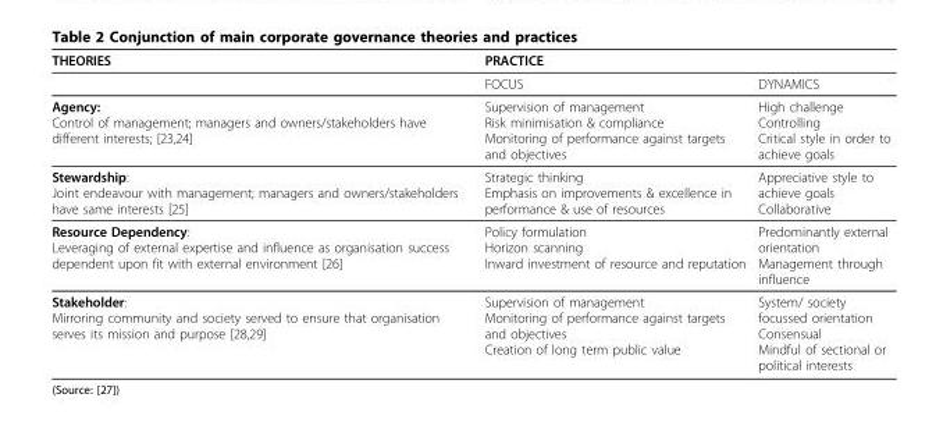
<table><thead><tr><td rowspan="2">THEORIES</td><td colspan="2">PRACTICE</td></tr><tr><td>FOCUS</td><td>DYNAMICS</td></tr></thead><tbody><tr><td>Agency: Control of management; managers and owners/stakeholders have different interests; [23,24]</td><td>Supervision of management Risk minimisation &amp; compliance Monitoring of performance against targets and objectives</td><td>High challenge Controlling Critical style in order to achieve goals</td></tr><tr><td>Stewardship: Joint endeavour with management; managers and owners/stakeholders have same interests [25]</td><td>Strategic thinking Emphasis on improvements &amp; excellence in performance &amp; use of resources</td><td>Appreciative style to achieve goals Collaborative</td></tr><tr><td>Resource Dependency: Leveraging of external expertise and influence as organisation success dependent upon fit with external environment [26]</td><td>Policy formulation Horizon scanning Inward investment of resource and reputation</td><td>Predominantly external orientation Management through influence</td></tr><tr><td>Stakeholder: Mirroring community and society served to ensure that organisation serves its mission and purpose [28,29]</td><td>Supervision of management Monitoring of performance against targets and objectives Creation of long term public value</td><td>System/ society focussed orientation Consensual Mindful of sectional or political interests</td></tr></tbody></table>